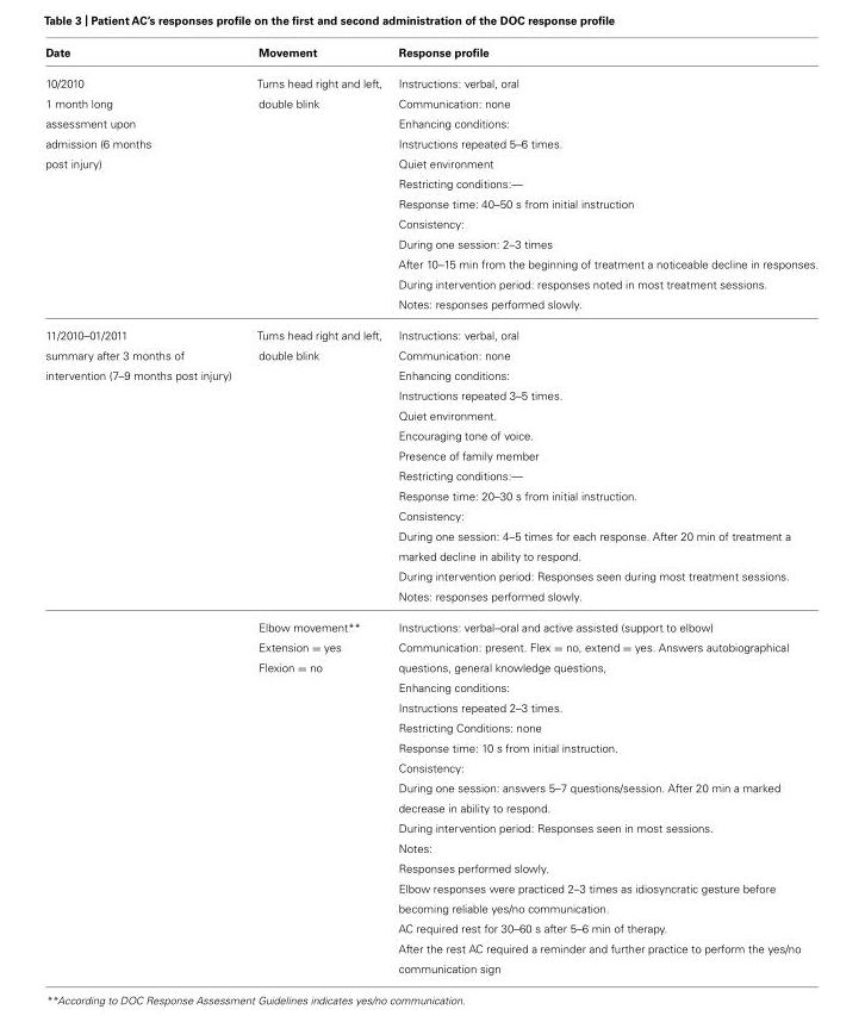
<table><thead><tr><td>Date</td><td>Movement</td><td>Response profile</td></tr></thead><tbody><tr><td>10/2010 1 month long assessment upon admission (6 months post injury)</td><td>Turns head right and left, double blink</td><td>Instructions: verbal, oral Communication: none Enhancing conditions: Instructions repeated 5–6 times. Quiet environment Restricting conditions:— Response time: 40–50 s from initial instruction Consistency: During one session: 2–3 times After 10–15 min from the beginning of treatment a noticeable decline in responses. During intervention period: responses noted in most treatment sessions. Notes: responses performed slowly.</td></tr><tr><td rowspan="2">11/2010–01/2011 summary after 3 months of intervention (7–9 months post injury)</td><td>Turns head right and left, double blink</td><td>Instructions: verbal, oral Communication: none Enhancing conditions: Instructions repeated 3–5 times. Quiet environment. Encouraging tone of voice. Presence of family member Restricting conditions:— Response time: 20–30 s from initial instruction. Consistency: During one session: 4–5 times for each response. After 20 min of treatment a marked decline in ability to respond. During intervention period: Responses seen during most treatment sessions. Notes: responses performed slowly.</td></tr><tr><td>Elbow movement** Extension = yes Flexion = no</td><td>Instructions: verbal–oral and active assisted (support to elbow) Communication: present. Flex = no, extend = yes. Answers autobiographical questions, general knowledge questions, Enhancing conditions: Instructions repeated 2–3 times. Restricting Conditions: none Response time: 10 s from initial instruction. Consistency: During one session: answers 5–7 questions/session. After 20 min a marked decrease in ability to respond. During intervention period: Responses seen in most sessions. Notes: Responses performed slowly. Elbow responses were practiced 2–3 times as idiosyncratic gesture before becoming reliable yes/no communication. AC required rest for 30–60 s after 5–6 min of therapy. After the rest AC required a reminder and further practice to perform the yes/no communication sign</td></tr></tbody></table>